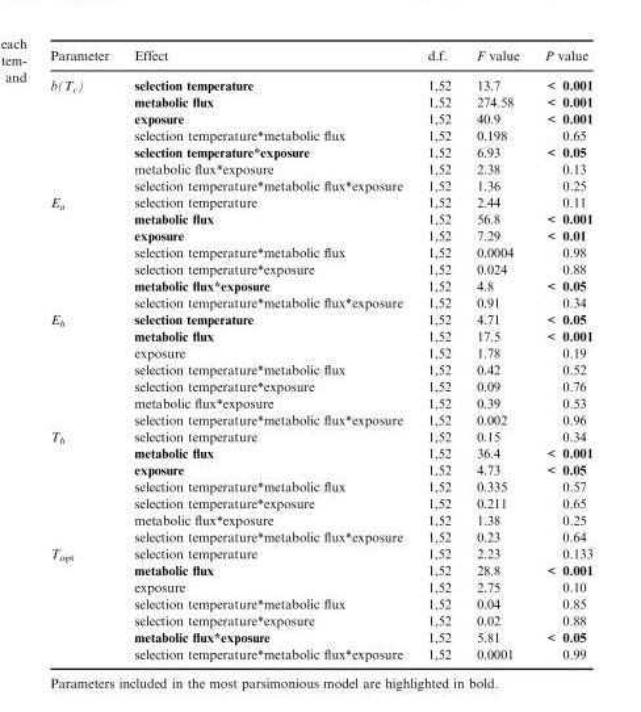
<table><thead><tr><td>Parameter</td><td>Effect</td><td>d.f.</td><td>F value</td><td>P value</td></tr></thead><tbody><tr><td rowspan="7">b(T<sub>c</sub>)</td><td>selection temperature</td><td>1,52</td><td>13.7</td><td>&lt; 0.001</td></tr><tr><td>metabolic flux</td><td>1,52</td><td>274.58</td><td>&lt; 0.001</td></tr><tr><td>exposure</td><td>1,52</td><td>40.9</td><td>&lt; 0.001</td></tr><tr><td>selection temperature*metabolic flux</td><td>1,52</td><td>0.198</td><td>0.65</td></tr><tr><td>selection temperature*exposure</td><td>1,52</td><td>6.93</td><td>&lt; 0.05</td></tr><tr><td>metabolic flux*exposure</td><td>1,52</td><td>2.38</td><td>0.13</td></tr><tr><td>selection temperature*metabolic flux*exposure</td><td>1,52</td><td>1.36</td><td>0.25</td></tr><tr><td rowspan="7">E<sub>a</sub></td><td>selection temperature</td><td>1,52</td><td>2.44</td><td>0.11</td></tr><tr><td>metabolic flux</td><td>1,52</td><td>56.8</td><td>&lt; 0.001</td></tr><tr><td>exposure</td><td>1,52</td><td>7.29</td><td>&lt; 0.01</td></tr><tr><td>selection temperature*metabolic flux</td><td>1,52</td><td>0.0004</td><td>0.98</td></tr><tr><td>selection temperature*exposure</td><td>1,52</td><td>0.024</td><td>0.88</td></tr><tr><td>metabolic flux*exposure</td><td>1,52</td><td>4.8</td><td>&lt; 0.05</td></tr><tr><td>selection temperature*metabolic flux*exposure</td><td>1,52</td><td>0.91</td><td>0.34</td></tr><tr><td rowspan="7">E<sub>h</sub></td><td>selection temperature</td><td>1,52</td><td>4.71</td><td>&lt; 0.05</td></tr><tr><td>metabolic flux</td><td>1,52</td><td>17.5</td><td>&lt; 0.001</td></tr><tr><td>exposure</td><td>1,52</td><td>1.78</td><td>0.19</td></tr><tr><td>selection temperature*metabolic flux</td><td>1,52</td><td>0.42</td><td>0.52</td></tr><tr><td>selection temperature*exposure</td><td>1,52</td><td>0.09</td><td>0.76</td></tr><tr><td>metabolic flux*exposure</td><td>1,52</td><td>0.39</td><td>0.53</td></tr><tr><td>selection temperature*metabolic flux*exposure</td><td>1,52</td><td>0.002</td><td>0.96</td></tr><tr><td rowspan="7">T<sub>h</sub></td><td>selection temperature</td><td>1,52</td><td>0.15</td><td>0.34</td></tr><tr><td>metabolic flux</td><td>1,52</td><td>36.4</td><td>&lt; 0.001</td></tr><tr><td>exposure</td><td>1,52</td><td>4.73</td><td>&lt; 0.05</td></tr><tr><td>selection temperature*metabolic flux</td><td>1,52</td><td>0.335</td><td>0.57</td></tr><tr><td>selection temperature*exposure</td><td>1,52</td><td>0.211</td><td>0.65</td></tr><tr><td>metabolic flux*exposure</td><td>1,52</td><td>1.38</td><td>0.25</td></tr><tr><td>selection temperature*metabolic flux*exposure</td><td>1,52</td><td>0.23</td><td>0.64</td></tr><tr><td rowspan="7">T<sub>opt</sub></td><td>selection temperature</td><td>1,52</td><td>2.23</td><td>0.133</td></tr><tr><td>metabolic flux</td><td>1,52</td><td>28.8</td><td>&lt; 0.001</td></tr><tr><td>exposure</td><td>1,52</td><td>2.75</td><td>0.10</td></tr><tr><td>selection temperature*metabolic flux</td><td>1,52</td><td>0.04</td><td>0.85</td></tr><tr><td>selection temperature*exposure</td><td>1,52</td><td>0.02</td><td>0.88</td></tr><tr><td>metabolic flux*exposure</td><td>1,52</td><td>5.81</td><td>&lt; 0.05</td></tr><tr><td>selection temperature*metabolic flux*exposure</td><td>1,52</td><td>0.0001</td><td>0.99</td></tr></tbody></table>